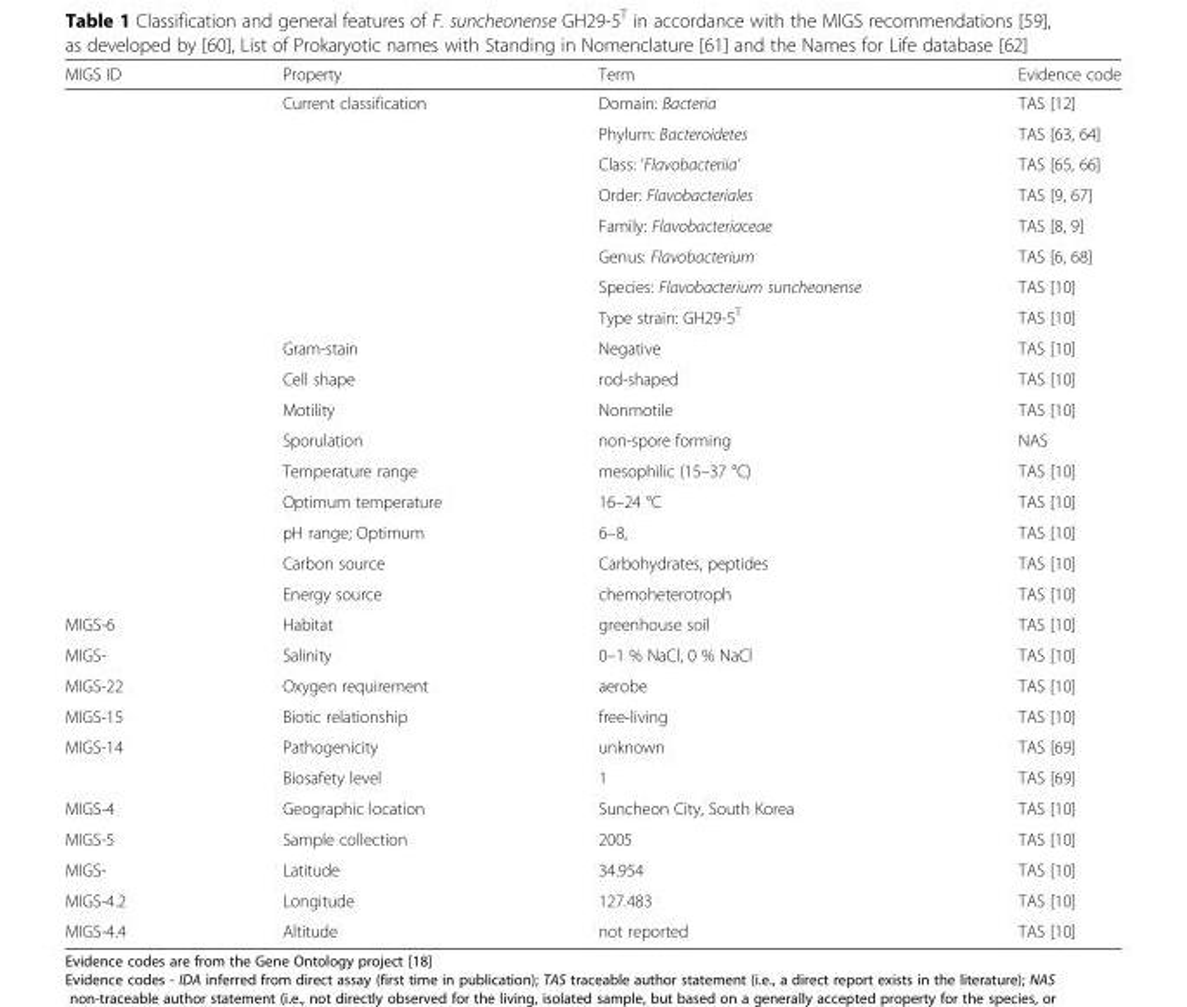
<table><thead><tr><td>MIGS ID</td><td>Property</td><td>Term</td><td>Evidence code</td></tr></thead><tbody><tr><td></td><td rowspan="8">Current classification</td><td>Domain: Bacteria</td><td>TAS [12]</td></tr><tr><td></td><td>Phylum: Bacteroidetes</td><td>TAS [63, 64]</td></tr><tr><td></td><td>Class: ‘Flavobacteriia’</td><td>TAS [65, 66]</td></tr><tr><td></td><td>Order: Flavobacteriales</td><td>TAS [9, 67]</td></tr><tr><td></td><td>Family: Flavobacteriaceae</td><td>TAS [8, 9]</td></tr><tr><td></td><td>Genus: Flavobacterium</td><td>TAS [6, 68]</td></tr><tr><td></td><td>Species: Flavobacterium suncheonense</td><td>TAS [10]</td></tr><tr><td></td><td>Type strain: GH29-5<sup>T</sup></td><td>TAS [10]</td></tr><tr><td></td><td>Gram-stain</td><td>Negative</td><td>TAS [10]</td></tr><tr><td></td><td>Cell shape</td><td>rod-shaped</td><td>TAS [10]</td></tr><tr><td></td><td>Motility</td><td>Nonmotile</td><td>TAS [10]</td></tr><tr><td></td><td>Sporulation</td><td>non-spore forming</td><td>NAS</td></tr><tr><td></td><td>Temperature range</td><td>mesophilic (15–37 °C)</td><td>TAS [10]</td></tr><tr><td></td><td>Optimum temperature</td><td>16–24 °C</td><td>TAS [10]</td></tr><tr><td></td><td>pH range; Optimum</td><td>6–8,</td><td>TAS [10]</td></tr><tr><td></td><td>Carbon source</td><td>Carbohydrates, peptides</td><td>TAS [10]</td></tr><tr><td></td><td>Energy source</td><td>chemoheterotroph</td><td>TAS [10]</td></tr><tr><td>MIGS-6</td><td>Habitat</td><td>greenhouse soil</td><td>TAS [10]</td></tr><tr><td>MIGS-</td><td>Salinity</td><td>0–1 % NaCl, 0 % NaCl</td><td>TAS [10]</td></tr><tr><td>MIGS-22</td><td>Oxygen requirement</td><td>aerobe</td><td>TAS [10]</td></tr><tr><td>MIGS-15</td><td>Biotic relationship</td><td>free-living</td><td>TAS [10]</td></tr><tr><td rowspan="2">MIGS-14</td><td>Pathogenicity</td><td>unknown</td><td>TAS [69]</td></tr><tr><td>Biosafety level</td><td>1</td><td>TAS [69]</td></tr><tr><td>MIGS-4</td><td>Geographic location</td><td>Suncheon City, South Korea</td><td>TAS [10]</td></tr><tr><td>MIGS-5</td><td>Sample collection</td><td>2005</td><td>TAS [10]</td></tr><tr><td>MIGS-</td><td>Latitude</td><td>34.954</td><td>TAS [10]</td></tr><tr><td>MIGS-4.2</td><td>Longitude</td><td>127.483</td><td>TAS [10]</td></tr><tr><td>MIGS-4.4</td><td>Altitude</td><td>not reported</td><td>TAS [10]</td></tr></tbody></table>